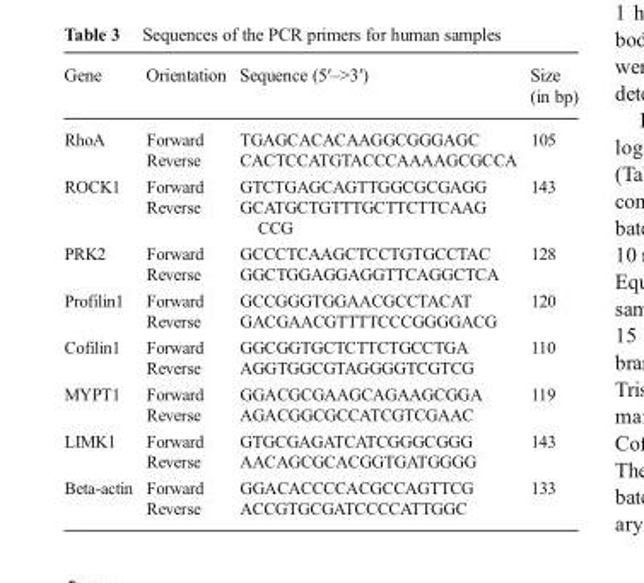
<table><thead><tr><td>Gene</td><td>Orientation</td><td>Sequence (5′–&gt;3′)</td><td>Size (in bp)</td></tr></thead><tbody><tr><td rowspan="2">RhoA</td><td>Forward</td><td>TGAGCACACAAGGCGGGAGC</td><td rowspan="2">105</td></tr><tr><td>Reverse</td><td>CACTCCATGTACCCAAAAGCGCCA</td></tr><tr><td rowspan="2">ROCK1</td><td>Forward</td><td>GTCTGAGCAGTTGGCGCGAGG</td><td rowspan="2">143</td></tr><tr><td>Reverse</td><td>GCATGCTGTTTGCTTCTTCAAG CCG</td></tr><tr><td rowspan="2">PRK2</td><td>Forward</td><td>GCCCTCAAGCTCCTGTGCCTAC</td><td rowspan="2">128</td></tr><tr><td>Reverse</td><td>GGCTGGAGGAGGTTCAGGCTCA</td></tr><tr><td rowspan="2">Profilin1</td><td>Forward</td><td>GCCGGGTGGAACGCCTACAT</td><td rowspan="2">120</td></tr><tr><td>Reverse</td><td>GACGAACGTTTTCCCGGGGACG</td></tr><tr><td rowspan="2">Cofilin1</td><td>Forward</td><td>GGCGGTGCTCTTCTGCCTGA</td><td rowspan="2">110</td></tr><tr><td>Reverse</td><td>AGGTGGCGTAGGGGTCGTCG</td></tr><tr><td rowspan="2">MYPT1</td><td>Forward</td><td>GGACGCGAAGCAGAAGCGGA</td><td rowspan="2">119</td></tr><tr><td>Reverse</td><td>AGACGGCGCCATCGTCGAAC</td></tr><tr><td rowspan="2">LIMK1</td><td>Forward</td><td>GTGCGAGATCATCGGGCGGG</td><td rowspan="2">143</td></tr><tr><td>Reverse</td><td>AACAGCGCACGGTGATGGGG</td></tr><tr><td rowspan="2">Beta-actin</td><td>Forward</td><td>GGACACCCCACGCCAGTTCG</td><td rowspan="2">133</td></tr><tr><td>Reverse</td><td>ACCGTGCGATCCCCATTGGC</td></tr></tbody></table>